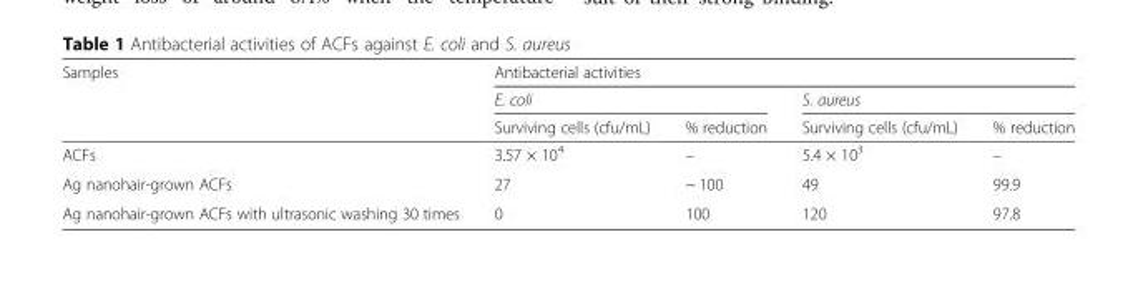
<table><thead><tr><td rowspan="3">Samples</td><td colspan="4">Antibacterial activities</td></tr><tr><td colspan="2">E. coli</td><td colspan="2">S. aureus</td></tr><tr><td>Surviving cells (cfu/mL)</td><td>% reduction</td><td>Surviving cells (cfu/mL)</td><td>% reduction</td></tr></thead><tbody><tr><td>ACFs</td><td>3.57 × 10<sup>4</sup></td><td>–</td><td>5.4 × 10<sup>3</sup></td><td>–</td></tr><tr><td>Ag nanohair-grown ACFs</td><td>27</td><td>~ 100</td><td>49</td><td>99.9</td></tr><tr><td>Ag nanohair-grown ACFs with ultrasonic washing 30 times</td><td>0</td><td>100</td><td>120</td><td>97.8</td></tr></tbody></table>